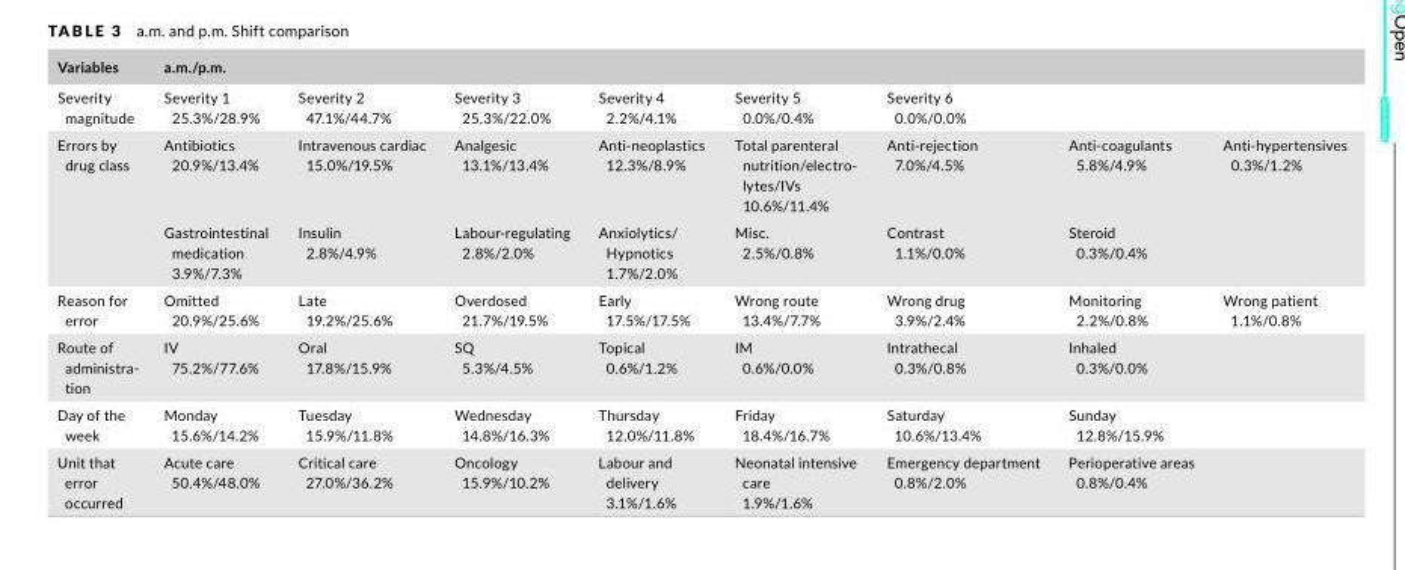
<table><thead><tr><td>Variables</td><td>a.m./p.m.</td><td></td><td></td><td></td><td></td><td></td><td></td><td></td></tr></thead><tbody><tr><td>Severity magnitude</td><td>Severity 1 25.3%/28.9%</td><td>Severity 2 47.1%/44.7%</td><td>Severity 3 25.3%/22.0%</td><td>Severity 4 2.2%/4.1%</td><td>Severity 5 0.0%/0.4%</td><td>Severity 6 0.0%/0.0%</td><td></td><td></td></tr><tr><td rowspan="2">Errors by drug class</td><td>Antibiotics 20.9%/13.4%</td><td>Intravenous cardiac 15.0%/19.5%</td><td>Analgesic 13.1%/13.4%</td><td>Anti‐neoplastics 12.3%/8.9%</td><td>Total parenteral nutrition/electro‐ lytes/IVs 10.6%/11.4%</td><td>Anti‐rejection 7.0%/4.5%</td><td>Anti‐coagulants 5.8%/4.9%</td><td>Anti‐hypertensives 0.3%/1.2%</td></tr><tr><td>Gastrointestinal medication 3.9%/7.3%</td><td>Insulin 2.8%/4.9%</td><td>Labour‐regulating 2.8%/2.0%</td><td>Anxiolytics/ Hypnotics 1.7%/2.0%</td><td>Misc. 2.5%/0.8%</td><td>Contrast 1.1%/0.0%</td><td>Steroid 0.3%/0.4%</td><td></td></tr><tr><td>Reason for error</td><td>Omitted 20.9%/25.6%</td><td>Late 19.2%/25.6%</td><td>Overdosed 21.7%/19.5%</td><td>Early 17.5%/17.5%</td><td>Wrong route 13.4%/7.7%</td><td>Wrong drug 3.9%/2.4%</td><td>Monitoring 2.2%/0.8%</td><td>Wrong patient 1.1%/0.8%</td></tr><tr><td>Route of administra‐ tion</td><td>IV 75.2%/77.6%</td><td>Oral 17.8%/15.9%</td><td>SQ 5.3%/4.5%</td><td>Topical 0.6%/1.2%</td><td>IM 0.6%/0.0%</td><td>Intrathecal 0.3%/0.8%</td><td>Inhaled 0.3%/0.0%</td><td></td></tr><tr><td>Day of the week</td><td>Monday 15.6%/14.2%</td><td>Tuesday 15.9%/11.8%</td><td>Wednesday 14.8%/16.3%</td><td>Thursday 12.0%/11.8%</td><td>Friday 18.4%/16.7%</td><td>Saturday 10.6%/13.4%</td><td>Sunday 12.8%/15.9%</td><td></td></tr><tr><td>Unit that error occurred</td><td>Acute care 50.4%/48.0%</td><td>Critical care 27.0%/36.2%</td><td>Oncology 15.9%/10.2%</td><td>Labour and delivery 3.1%/1.6%</td><td>Neonatal intensive care 1.9%/1.6%</td><td>Emergency department 0.8%/2.0%</td><td>Perioperative areas 0.8%/0.4%</td><td></td></tr></tbody></table>